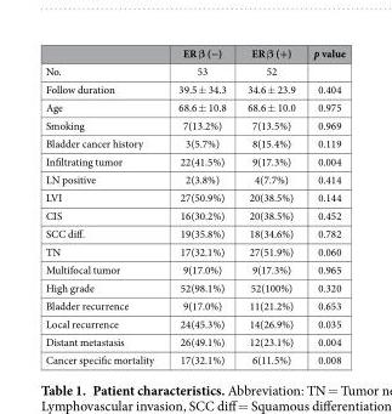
<table><thead><tr><td></td><td>ER β (−)</td><td>ER β (+)</td><td>p value</td></tr></thead><tbody><tr><td>No.</td><td>53</td><td>52</td><td></td></tr><tr><td>Follow duration</td><td>39.5 ± 34.3</td><td>34.6 ± 23.9</td><td>0.404</td></tr><tr><td>Age</td><td>68.6 ± 10.8</td><td>68.6 ± 10.0</td><td>0.975</td></tr><tr><td>Smoking</td><td>7(13.2%)</td><td>7(13.5%)</td><td>0.969</td></tr><tr><td>Bladder cancer history</td><td>3(5.7%)</td><td>8(15.4%)</td><td>0.119</td></tr><tr><td>Infiltrating tumor</td><td>22(41.5%)</td><td>9(17.3%)</td><td>0.004</td></tr><tr><td>LN positive</td><td>2(3.8%)</td><td>4(7.7%)</td><td>0.414</td></tr><tr><td>LVI</td><td>27(50.9%)</td><td>20(38.5%)</td><td>0.144</td></tr><tr><td>CIS</td><td>16(30.2%)</td><td>20(38.5%)</td><td>0.452</td></tr><tr><td>SCC diff.</td><td>19(35.8%)</td><td>18(34.6%)</td><td>0.782</td></tr><tr><td>TN</td><td>17(32.1%)</td><td>27(51.9%)</td><td>0.060</td></tr><tr><td>Multifocal tumor</td><td>9(17.0%)</td><td>9(17.3%)</td><td>0.965</td></tr><tr><td>High grade</td><td>52(98.1%)</td><td>52(100%)</td><td>0.320</td></tr><tr><td>Bladder recurrence</td><td>9(17.0%)</td><td>11(21.2%)</td><td>0.653</td></tr><tr><td>Local recurrence</td><td>24(45.3%)</td><td>14(26.9%)</td><td>0.035</td></tr><tr><td>Distant metastasis</td><td>26(49.1%)</td><td>12(23.1%)</td><td>0.004</td></tr><tr><td>Cancer specific mortality</td><td>17(32.1%)</td><td>6(11.5%)</td><td>0.008</td></tr></tbody></table>